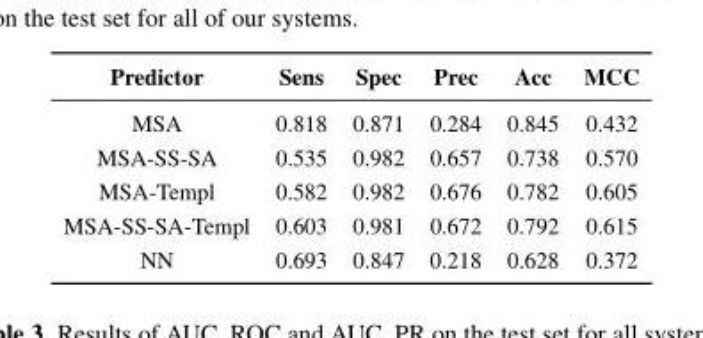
<table><thead><tr><td>Predictor</td><td>Sens</td><td>Spec</td><td>Prec</td><td>Acc</td><td>MCC</td></tr></thead><tbody><tr><td>MSA</td><td>0.818</td><td>0.871</td><td>0.284</td><td>0.845</td><td>0.432</td></tr><tr><td>MSA-SS-SA</td><td>0.535</td><td>0.982</td><td>0.657</td><td>0.738</td><td>0.570</td></tr><tr><td>MSA-Templ</td><td>0.582</td><td>0.982</td><td>0.676</td><td>0.782</td><td>0.605</td></tr><tr><td>MSA-SS-SA-Templ</td><td>0.603</td><td>0.981</td><td>0.672</td><td>0.792</td><td>0.615</td></tr><tr><td>NN</td><td>0.693</td><td>0.847</td><td>0.218</td><td>0.628</td><td>0.372</td></tr></tbody></table>